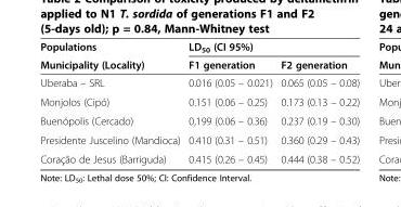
<table><thead><tr><td rowspan="2">Populations Municipality (Locality)</td><td colspan="2">LD<sub>50</sub> (CI 95%)</td></tr><tr><td>F1 generation</td><td>F2 generation</td></tr></thead><tbody><tr><td>Uberaba – SRL</td><td>0.016 (0.05 – 0.021)</td><td>0.065 (0.05 – 0.08)</td></tr><tr><td>Monjolos (Cipó)</td><td>0.151 (0.06 – 0.25)</td><td>0.173 (0.13 – 0.22)</td></tr><tr><td>Buenópolis (Cercado)</td><td>0,199 (0.06 – 0.36)</td><td>0.237 (0.19 – 0.30)</td></tr><tr><td>Presidente Juscelino (Mandioca)</td><td>0.410 (0.31 – 0.51)</td><td>0.360 (0.29 – 0.43)</td></tr><tr><td>Coração de Jesus (Barriguda)</td><td>0.415 (0.26 – 0.45)</td><td>0.444 (0.38 – 0.52)</td></tr></tbody></table>